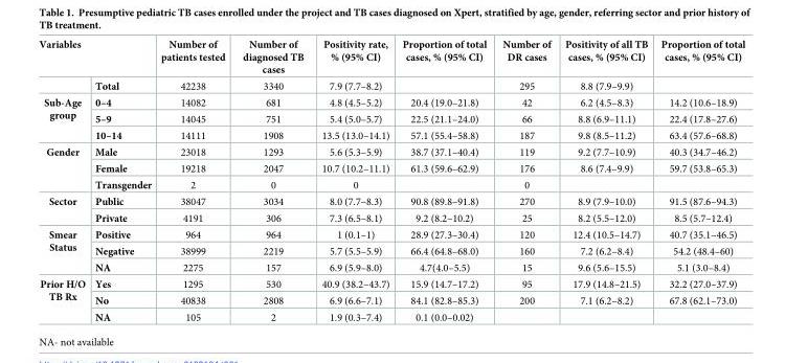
<table><thead><tr><td colspan="2">Variables</td><td rowspan="2">Number of patients tested 42238</td><td rowspan="2">Number of diagnosed TB cases 3340</td><td rowspan="2">Positivity rate, % (95% CI) 7.9 (7.7–8.2)</td><td rowspan="2">Proportion of total cases, % (95% CI)</td><td rowspan="2">Number of DR cases 295</td><td rowspan="2">Positivity of all TB cases, % (95% CI) 8.8 (7.9–9.9)</td><td rowspan="2">Proportion of total cases, % (95% CI)</td></tr><tr><td></td><td>Total</td></tr></thead><tbody><tr><td rowspan="3">Sub-Age group</td><td>0–4</td><td>14082</td><td>681</td><td>4.8 (4.5–5.2)</td><td>20.4 (19.0–21.8)</td><td>42</td><td>6.2 (4.5–8.3)</td><td>14.2 (10.6–18.9)</td></tr><tr><td>5–9</td><td>14045</td><td>751</td><td>5.4 (5.0–5.7)</td><td>22.5 (21.1–24.0)</td><td>66</td><td>8.8 (6.9–11.1)</td><td>22.4 (17.8–27.6)</td></tr><tr><td>10–14</td><td>14111</td><td>1908</td><td>13.5 (13.0–14.1)</td><td>57.1 (55.4–58.8)</td><td>187</td><td>9.8 (8.5–11.2)</td><td>63.4 (57.6–68.8)</td></tr><tr><td rowspan="3">Gender</td><td>Male</td><td>23018</td><td>1293</td><td>5.6 (5.3–5.9)</td><td>38.7 (37.1–40.4)</td><td>119</td><td>9.2 (7.7–10.9)</td><td>40.3 (34.7–46.2)</td></tr><tr><td>Female</td><td>19218</td><td>2047</td><td>10.7 (10.2–11.1)</td><td>61.3 (59.6–62.9)</td><td>176</td><td>8.6 (7.4–9.9)</td><td>59.7 (53.8–65.3)</td></tr><tr><td>Transgender</td><td>2</td><td>0</td><td>0</td><td></td><td>0</td><td></td><td></td></tr><tr><td rowspan="2">Sector</td><td>Public</td><td>38047</td><td>3034</td><td>8.0 (7.7–8.3)</td><td>90.8 (89.8–91.8)</td><td>270</td><td>8.9 (7.9–10.0)</td><td>91.5 (87.6–94.3)</td></tr><tr><td>Private</td><td>4191</td><td>306</td><td>7.3 (6.5–8.1)</td><td>9.2 (8.2–10.2)</td><td>25</td><td>8.2 (5.5–12.0)</td><td>8.5 (5.7–12.4)</td></tr><tr><td rowspan="3">Smear Status</td><td>Positive</td><td>964</td><td>964</td><td>1 (0.1–1)</td><td>28.9 (27.3–30.4)</td><td>120</td><td>12.4 (10.5–14.7)</td><td>40.7 (35.1–46.5)</td></tr><tr><td>Negative</td><td>38999</td><td>2219</td><td>5.7 (5.5–5.9)</td><td>66.4 (64.8–68.0)</td><td>160</td><td>7.2 (6.2–8.4)</td><td>54.2 (48.4–60)</td></tr><tr><td>NA</td><td>2275</td><td>157</td><td>6.9 (5.9–8.0)</td><td>4.7(4.0–5.5)</td><td>15</td><td>9.6 (5.6–15.5)</td><td>5.1 (3.0–8.4)</td></tr><tr><td rowspan="3">Prior H/O TB Rx</td><td>Yes</td><td>1295</td><td>530</td><td>40.9 (38.2–43.7)</td><td>15.9 (14.7–17.2)</td><td>95</td><td>17.9 (14.8–21.5)</td><td>32.2 (27.0–37.9)</td></tr><tr><td>No</td><td>40838</td><td>2808</td><td>6.9 (6.6–7.1)</td><td>84.1 (82.8–85.3)</td><td>200</td><td>7.1 (6.2–8.2)</td><td>67.8 (62.1–73.0)</td></tr><tr><td>NA</td><td>105</td><td>2</td><td>1.9 (0.3–7.4)</td><td>0.1 (0.0–0.02)</td><td></td><td></td><td></td></tr></tbody></table>